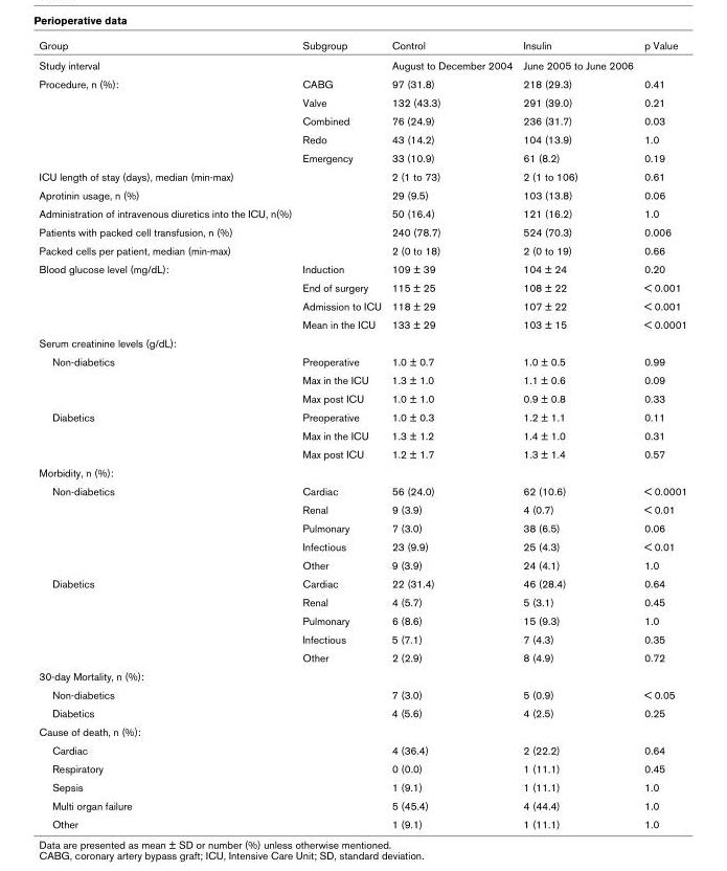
<table><thead><tr><td>Group</td><td>Subgroup</td><td>Control</td><td>Insulin</td><td>p Value</td></tr></thead><tbody><tr><td>Study interval</td><td></td><td>August to December 2004</td><td>June 2005 to June 2006</td><td></td></tr><tr><td rowspan="5">Procedure, n (%):</td><td>CABG</td><td>97 (31.8)</td><td>218 (29.3)</td><td>0.41</td></tr><tr><td>Valve</td><td>132 (43.3)</td><td>291 (39.0)</td><td>0.21</td></tr><tr><td>Combined</td><td>76 (24.9)</td><td>236 (31.7)</td><td>0.03</td></tr><tr><td>Redo</td><td>43 (14.2)</td><td>104 (13.9)</td><td>1.0</td></tr><tr><td>Emergency</td><td>33 (10.9)</td><td>61 (8.2)</td><td>0.19</td></tr><tr><td>ICU length of stay (days), median (min-max)</td><td></td><td>2 (1 to 73)</td><td>2 (1 to 106)</td><td>0.61</td></tr><tr><td>Aprotinin usage, n (%)</td><td></td><td>29 (9.5)</td><td>103 (13.8)</td><td>0.06</td></tr><tr><td>Administration of intravenous diuretics into the ICU, n(%)</td><td></td><td>50 (16.4)</td><td>121 (16.2)</td><td>1.0</td></tr><tr><td>Patients with packed cell transfusion, n (%)</td><td></td><td>240 (78.7)</td><td>524 (70.3)</td><td>0.006</td></tr><tr><td>Packed cells per patient, median (min-max)</td><td></td><td>2 (0 to 18)</td><td>2 (0 to 19)</td><td>0.66</td></tr><tr><td rowspan="4">Blood glucose level (mg/dL):</td><td>Induction</td><td>109 ± 39</td><td>104 ± 24</td><td>0.20</td></tr><tr><td>End of surgery</td><td>115 ± 25</td><td>108 ± 22</td><td>&lt; 0.001</td></tr><tr><td>Admission to ICU</td><td>118 ± 29</td><td>107 ± 22</td><td>&lt; 0.001</td></tr><tr><td>Mean in the ICU</td><td>133 ± 29</td><td>103 ± 15</td><td>&lt; 0.0001</td></tr><tr><td colspan="5">Serum creatinine levels (g/dL):</td></tr><tr><td rowspan="3">Non-diabetics</td><td>Preoperative</td><td>1.0 ± 0.7</td><td>1.0 ± 0.5</td><td>0.99</td></tr><tr><td>Max in the ICU</td><td>1.3 ± 1.0</td><td>1.1 ± 0.6</td><td>0.09</td></tr><tr><td>Max post ICU</td><td>1.0 ± 1.0</td><td>0.9 ± 0.8</td><td>0.33</td></tr><tr><td rowspan="3">Diabetics</td><td>Preoperative</td><td>1.0 ± 0.3</td><td>1.2 ± 1.1</td><td>0.11</td></tr><tr><td>Max in the ICU</td><td>1.3 ± 1.2</td><td>1.4 ± 1.0</td><td>0.31</td></tr><tr><td>Max post ICU</td><td>1.2 ± 1.7</td><td>1.3 ± 1.4</td><td>0.57</td></tr><tr><td colspan="5">Morbidity, n (%):</td></tr><tr><td rowspan="5">Non-diabetics</td><td>Cardiac</td><td>56 (24.0)</td><td>62 (10.6)</td><td>&lt; 0.0001</td></tr><tr><td>Renal</td><td>9 (3.9)</td><td>4 (0.7)</td><td>&lt; 0.01</td></tr><tr><td>Pulmonary</td><td>7 (3.0)</td><td>38 (6.5)</td><td>0.06</td></tr><tr><td>Infectious</td><td>23 (9.9)</td><td>25 (4.3)</td><td>&lt; 0.01</td></tr><tr><td>Other</td><td>9 (3.9)</td><td>24 (4.1)</td><td>1.0</td></tr><tr><td rowspan="5">Diabetics</td><td>Cardiac</td><td>22 (31.4)</td><td>46 (28.4)</td><td>0.64</td></tr><tr><td>Renal</td><td>4 (5.7)</td><td>5 (3.1)</td><td>0.45</td></tr><tr><td>Pulmonary</td><td>6 (8.6)</td><td>15 (9.3)</td><td>1.0</td></tr><tr><td>Infectious</td><td>5 (7.1)</td><td>7 (4.3)</td><td>0.35</td></tr><tr><td>Other</td><td>2 (2.9)</td><td>8 (4.9)</td><td>0.72</td></tr><tr><td colspan="5">30-day Mortality, n (%):</td></tr><tr><td>Non-diabetics</td><td></td><td>7 (3.0)</td><td>5 (0.9)</td><td>&lt; 0.05</td></tr><tr><td>Diabetics</td><td></td><td>4 (5.6)</td><td>4 (2.5)</td><td>0.25</td></tr><tr><td colspan="5">Cause of death, n (%):</td></tr><tr><td>Cardiac</td><td></td><td>4 (36.4)</td><td>2 (22.2)</td><td>0.64</td></tr><tr><td>Respiratory</td><td></td><td>0 (0.0)</td><td>1 (11.1)</td><td>0.45</td></tr><tr><td>Sepsis</td><td></td><td>1 (9.1)</td><td>1 (11.1)</td><td>1.0</td></tr><tr><td>Multi organ failure</td><td></td><td>5 (45.4)</td><td>4 (44.4)</td><td>1.0</td></tr><tr><td>Other</td><td></td><td>1 (9.1)</td><td>1 (11.1)</td><td>1.0</td></tr></tbody></table>